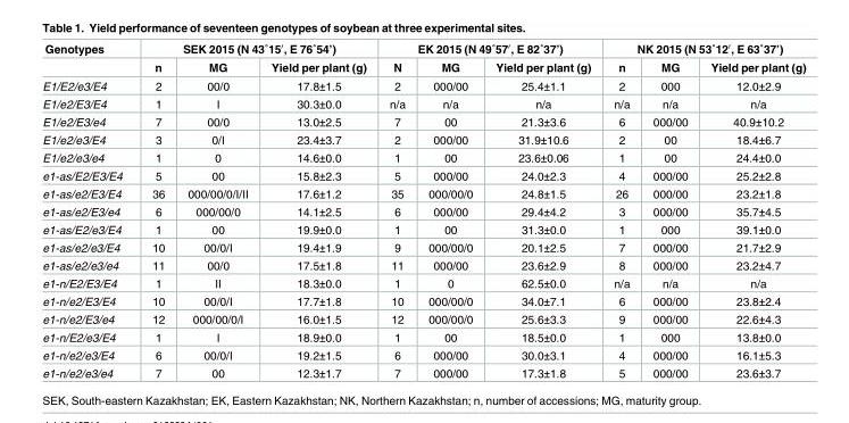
<table><thead><tr><td rowspan="2">Genotypes</td><td colspan="3">SEK 2015 (N 43˚15′, E 76˚54’)</td><td colspan="3">EK 2015 (N 49˚57′, E 82˚37’)</td><td colspan="3">NK 2015 (N 53˚12′, E 63˚37’)</td></tr><tr><td>n</td><td>MG</td><td>Yield per plant (g)</td><td>N</td><td>MG</td><td>Yield per plant (g)</td><td>n</td><td>MG</td><td>Yield per plant (g)</td></tr></thead><tbody><tr><td>E1/E2/e3/E4</td><td>2</td><td>00/0</td><td>17.8±1.5</td><td>2</td><td>000/00</td><td>25.4±1.1</td><td>2</td><td>000</td><td>12.0±2.9</td></tr><tr><td>E1/e2/E3/E4</td><td>1</td><td>I</td><td>30.3±0.0</td><td>n/a</td><td>n/a</td><td>n/a</td><td>n/a</td><td>n/a</td><td>n/a</td></tr><tr><td>E1/e2/E3/e4</td><td>7</td><td>00/0</td><td>13.0±2.5</td><td>7</td><td>00</td><td>21.3±3.6</td><td>6</td><td>000/00</td><td>40.9±10.2</td></tr><tr><td>E1/e2/e3/E4</td><td>3</td><td>0/I</td><td>23.4±3.7</td><td>2</td><td>000/00</td><td>31.9±10.6</td><td>2</td><td>00</td><td>18.4±6.7</td></tr><tr><td>E1/e2/e3/e4</td><td>1</td><td>0</td><td>14.6±0.0</td><td>1</td><td>00</td><td>23.6±0.06</td><td>1</td><td>00</td><td>24.4±0.0</td></tr><tr><td>e1-as/E2/E3/E4</td><td>5</td><td>00</td><td>15.8±2.3</td><td>5</td><td>000/00</td><td>24.0±2.3</td><td>4</td><td>000/00</td><td>25.2±2.8</td></tr><tr><td>e1-as/e2/E3/E4</td><td>36</td><td>000/00/0/I/II</td><td>17.6±1.2</td><td>35</td><td>000/00/0</td><td>24.8±1.5</td><td>26</td><td>000/00</td><td>23.2±1.8</td></tr><tr><td>e1-as/e2/E3/e4</td><td>6</td><td>000/00/0</td><td>14.1±2.5</td><td>6</td><td>000/00</td><td>29.4±4.2</td><td>3</td><td>000/00</td><td>35.7±4.5</td></tr><tr><td>e1-as/E2/e3/E4</td><td>1</td><td>00</td><td>19.9±0.0</td><td>1</td><td>00</td><td>31.3±0.0</td><td>1</td><td>000</td><td>39.1±0.0</td></tr><tr><td>e1-as/e2/e3/E4</td><td>10</td><td>00/0/I</td><td>19.4±1.9</td><td>9</td><td>000/00/0</td><td>20.1±2.5</td><td>7</td><td>000/00</td><td>21.7±2.9</td></tr><tr><td>e1-as/e2/e3/e4</td><td>11</td><td>00/0</td><td>17.5±1.8</td><td>11</td><td>000/00</td><td>23.6±2.9</td><td>8</td><td>000/00</td><td>23.2±4.7</td></tr><tr><td>e1-n/E2/E3/E4</td><td>1</td><td>II</td><td>18.3±0.0</td><td>1</td><td>0</td><td>62.5±0.0</td><td>n/a</td><td>n/a</td><td>n/a</td></tr><tr><td>e1-n/e2/E3/E4</td><td>10</td><td>00/0/I</td><td>17.7±1.8</td><td>10</td><td>000/00/0</td><td>34.0±7.1</td><td>6</td><td>000/00</td><td>23.8±2.4</td></tr><tr><td>e1-n/e2/E3/e4</td><td>12</td><td>000/00/0/I</td><td>16.0±1.5</td><td>12</td><td>000/00/0</td><td>25.6±3.3</td><td>9</td><td>000/00</td><td>22.6±4.3</td></tr><tr><td>e1-n/E2/e3/E4</td><td>1</td><td>I</td><td>18.9±0.0</td><td>1</td><td>00</td><td>18.5±0.0</td><td>1</td><td>000</td><td>13.8±0.0</td></tr><tr><td>e1-n/e2/e3/E4</td><td>6</td><td>00/0/I</td><td>19.2±1.5</td><td>6</td><td>000/00</td><td>30.0±3.1</td><td>4</td><td>000/00</td><td>16.1±5.3</td></tr><tr><td>e1-n/e2/e3/e4</td><td>7</td><td>00</td><td>12.3±1.7</td><td>7</td><td>000/00</td><td>17.3±1.8</td><td>5</td><td>000/00</td><td>23.6±3.7</td></tr></tbody></table>